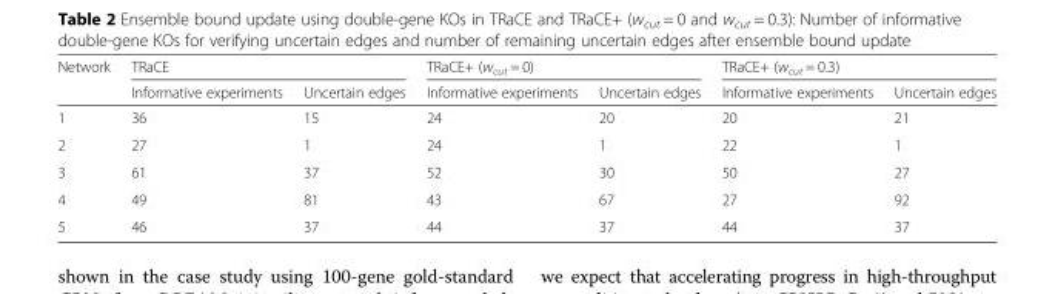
<table><thead><tr><td rowspan="2">Network</td><td colspan="2">TRaCE</td><td colspan="2">TRaCE+ (w<sub>cut</sub> = 0)</td><td colspan="2">TRaCE+ (w<sub>cut</sub> = 0.3)</td></tr><tr><td>Informative experiments</td><td>Uncertain edges</td><td>Informative experiments</td><td>Uncertain edges</td><td>Informative experiments</td><td>Uncertain edges</td></tr></thead><tbody><tr><td>1</td><td>36</td><td>15</td><td>24</td><td>20</td><td>20</td><td>21</td></tr><tr><td>2</td><td>27</td><td>1</td><td>24</td><td>1</td><td>22</td><td>1</td></tr><tr><td>3</td><td>61</td><td>37</td><td>52</td><td>30</td><td>50</td><td>27</td></tr><tr><td>4</td><td>49</td><td>81</td><td>43</td><td>67</td><td>27</td><td>92</td></tr><tr><td>5</td><td>46</td><td>37</td><td>44</td><td>37</td><td>44</td><td>37</td></tr></tbody></table>